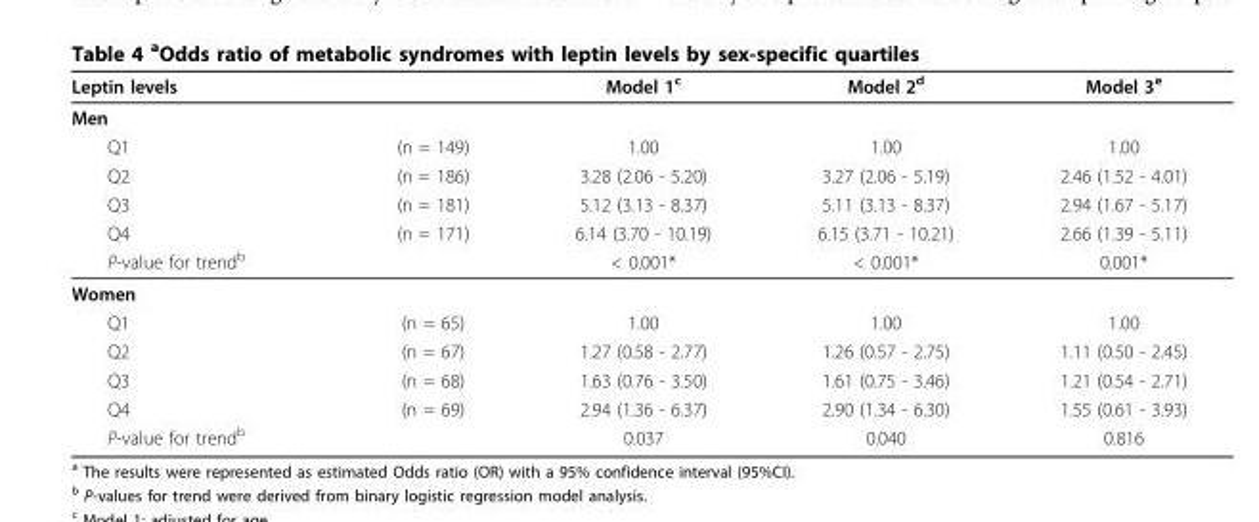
<table><thead><tr><td>Leptin levels</td><td></td><td>Model 1<sup>c</sup></td><td>Model 2<sup>d</sup></td><td>Model 3<sup>e</sup></td></tr></thead><tbody><tr><td colspan="5">Men</td></tr><tr><td>Q1</td><td>(n = 149)</td><td>1.00</td><td>1.00</td><td>1.00</td></tr><tr><td>Q2</td><td>(n = 186)</td><td>3.28 (2.06 - 5.20)</td><td>3.27 (2.06 - 5.19)</td><td>2.46 (1.52 - 4.01)</td></tr><tr><td>Q3</td><td>(n = 181)</td><td>5.12 (3.13 - 8.37)</td><td>5.11 (3.13 - 8.37)</td><td>2.94 (1.67 - 5.17)</td></tr><tr><td>Q4</td><td>(n = 171)</td><td>6.14 (3.70 - 10.19)</td><td>6.15 (3.71 - 10.21)</td><td>2.66 (1.39 - 5.11)</td></tr><tr><td>P-value for trend<sup>b</sup></td><td></td><td>&lt; 0.001*</td><td>&lt; 0.001*</td><td>0.001*</td></tr><tr><td colspan="5">Women</td></tr><tr><td>Q1</td><td>(n = 65)</td><td>1.00</td><td>1.00</td><td>1.00</td></tr><tr><td>Q2</td><td>(n = 67)</td><td>1.27 (0.58 - 2.77)</td><td>1.26 (0.57 - 2.75)</td><td>1.11 (0.50 - 2.45)</td></tr><tr><td>Q3</td><td>(n = 68)</td><td>1.63 (0.76 - 3.50)</td><td>1.61 (0.75 - 3.46)</td><td>1.21 (0.54 - 2.71)</td></tr><tr><td>Q4</td><td>(n = 69)</td><td>2.94 (1.36 - 6.37)</td><td>2.90 (1.34 - 6.30)</td><td>1.55 (0.61 - 3.93)</td></tr><tr><td>P-value for trend<sup>b</sup></td><td></td><td>0.037</td><td>0.040</td><td>0.816</td></tr></tbody></table>